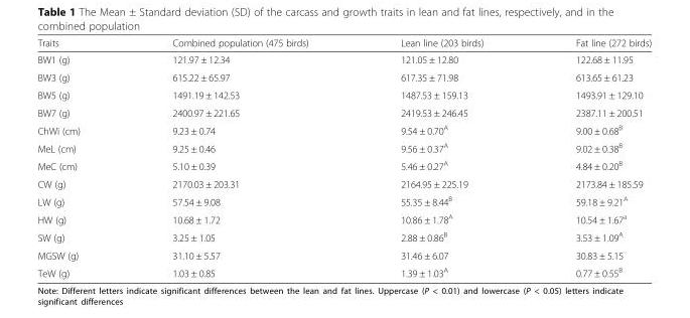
<table><thead><tr><td>Traits</td><td>Combined population (475 birds)</td><td>Lean line (203 birds)</td><td>Fat line (272 birds)</td></tr></thead><tbody><tr><td>BW1 (g)</td><td>121.97 ± 12.34</td><td>121.05 ± 12.80</td><td>122.68 ± 11.95</td></tr><tr><td>BW3 (g)</td><td>615.22 ± 65.97</td><td>617.35 ± 71.98</td><td>613.65 ± 61.23</td></tr><tr><td>BW5 (g)</td><td>1491.19 ± 142.53</td><td>1487.53 ± 159.13</td><td>1493.91 ± 129.10</td></tr><tr><td>BW7 (g)</td><td>2400.97 ± 221.65</td><td>2419.53 ± 246.45</td><td>2387.11 ± 200.51</td></tr><tr><td>ChWi (cm)</td><td>9.23 ± 0.74</td><td>9.54 ± 0.70<sup>A</sup></td><td>9.00 ± 0.68<sup>B</sup></td></tr><tr><td>MeL (cm)</td><td>9.25 ± 0.46</td><td>9.56 ± 0.37<sup>A</sup></td><td>9.02 ± 0.38<sup>B</sup></td></tr><tr><td>MeC (cm)</td><td>5.10 ± 0.39</td><td>5.46 ± 0.27<sup>A</sup></td><td>4.84 ± 0.20<sup>B</sup></td></tr><tr><td>CW (g)</td><td>2170.03 ± 203.31</td><td>2164.95 ± 225.19</td><td>2173.84 ± 185.59</td></tr><tr><td>LW (g)</td><td>57.54 ± 9.08</td><td>55.35 ± 8.44<sup>B</sup></td><td>59.18 ± 9.21<sup>A</sup></td></tr><tr><td>HW (g)</td><td>10.68 ± 1.72</td><td>10.86 ± 1.78<sup>A</sup></td><td>10.54 ± 1.67<sup>a</sup></td></tr><tr><td>SW (g)</td><td>3.25 ± 1.05</td><td>2.88 ± 0.86<sup>B</sup></td><td>3.53 ± 1.09<sup>A</sup></td></tr><tr><td>MGSW (g)</td><td>31.10 ± 5.57</td><td>31.46 ± 6.07</td><td>30.83 ± 5.15</td></tr><tr><td>TeW (g)</td><td>1.03 ± 0.85</td><td>1.39 ± 1.03<sup>A</sup></td><td>0.77 ± 0.55<sup>B</sup></td></tr></tbody></table>